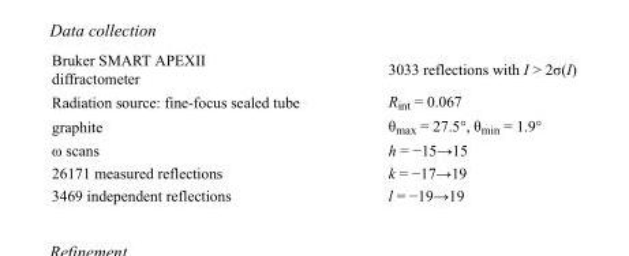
<table><tbody><tr><td>Bruker SMART APEXII diffractometer</td><td>3033 reflections with I &gt; 2σ(I)</td></tr><tr><td>Radiation source: fine-focus sealed tube</td><td>R<sub>int</sub> = 0.067</td></tr><tr><td>graphite</td><td>θ<sub>max</sub> = 27.5°, θ<sub>min</sub> = 1.9°</td></tr><tr><td>ω scans</td><td>h = −15→15</td></tr><tr><td>26171 measured reflections</td><td>k = −17→19</td></tr><tr><td>3469 independent reflections</td><td>l = −19→19</td></tr></tbody></table>